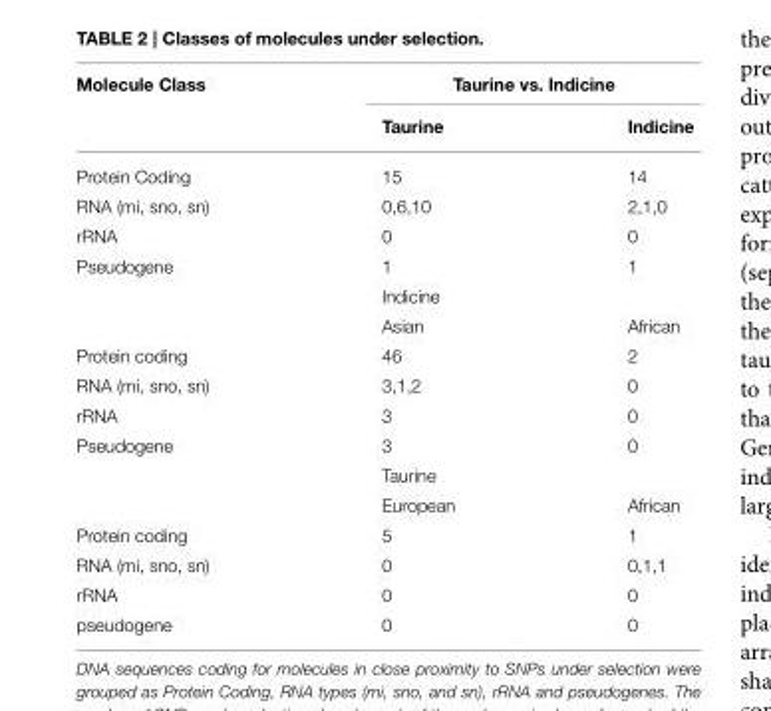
<table><thead><tr><td rowspan="2">Molecule Class</td><td colspan="2">Taurine vs. Indicine</td></tr><tr><td>Taurine</td><td>Indicine</td></tr></thead><tbody><tr><td>Protein Coding</td><td>15</td><td>14</td></tr><tr><td>RNA (mi, sno, sn)</td><td>0,6,10</td><td>2,1,0</td></tr><tr><td>rRNA</td><td>0</td><td>0</td></tr><tr><td rowspan="3">Pseudogene</td><td>1</td><td>1</td></tr><tr><td colspan="2">Indicine</td></tr><tr><td>Asian</td><td>African</td></tr><tr><td>Protein coding</td><td>46</td><td>2</td></tr><tr><td>RNA (mi, sno, sn)</td><td>3,1,2</td><td>0</td></tr><tr><td>rRNA</td><td>3</td><td>0</td></tr><tr><td rowspan="3">Pseudogene</td><td>3</td><td>0</td></tr><tr><td colspan="2">Taurine</td></tr><tr><td>European</td><td>African</td></tr><tr><td>Protein coding</td><td>5</td><td>1</td></tr><tr><td>RNA (mi, sno, sn)</td><td>0</td><td>0,1,1</td></tr><tr><td>rRNA</td><td>0</td><td>0</td></tr><tr><td>pseudogene</td><td>0</td><td>0</td></tr></tbody></table>